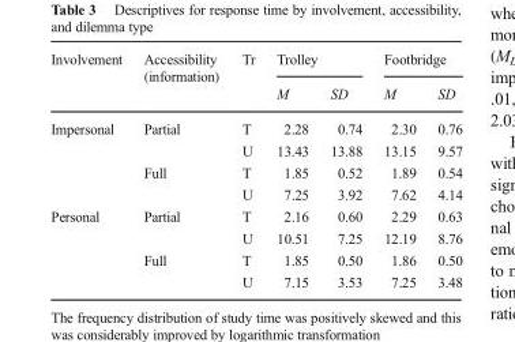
<table><thead><tr><td rowspan="2">Involvement</td><td rowspan="2">Accessibility (information)</td><td rowspan="2">Tr</td><td colspan="2">Trolley</td><td colspan="2">Footbridge</td></tr><tr><td>M</td><td>SD</td><td>M</td><td>SD</td></tr></thead><tbody><tr><td rowspan="4">Impersonal</td><td rowspan="2">Partial</td><td>T</td><td>2.28</td><td>0.74</td><td>2.30</td><td>0.76</td></tr><tr><td>U</td><td>13.43</td><td>13.88</td><td>13.15</td><td>9.57</td></tr><tr><td rowspan="2">Full</td><td>T</td><td>1.85</td><td>0.52</td><td>1.89</td><td>0.54</td></tr><tr><td>U</td><td>7.25</td><td>3.92</td><td>7.62</td><td>4.14</td></tr><tr><td rowspan="4">Personal</td><td rowspan="2">Partial</td><td>T</td><td>2.16</td><td>0.60</td><td>2.29</td><td>0.63</td></tr><tr><td>U</td><td>10.51</td><td>7.25</td><td>12.19</td><td>8.76</td></tr><tr><td rowspan="2">Full</td><td>T</td><td>1.85</td><td>0.50</td><td>1.86</td><td>0.50</td></tr><tr><td>U</td><td>7.15</td><td>3.53</td><td>7.25</td><td>3.48</td></tr></tbody></table>